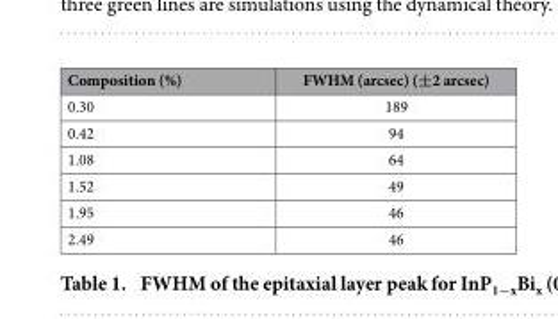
<table><thead><tr><td>Composition (%)</td><td>FWHM (arcsec) (±2 arcsec)</td></tr></thead><tbody><tr><td>0.30</td><td>189</td></tr><tr><td>0.42</td><td>94</td></tr><tr><td>1.08</td><td>64</td></tr><tr><td>1.52</td><td>49</td></tr><tr><td>1.95</td><td>46</td></tr><tr><td>2.49</td><td>46</td></tr></tbody></table>